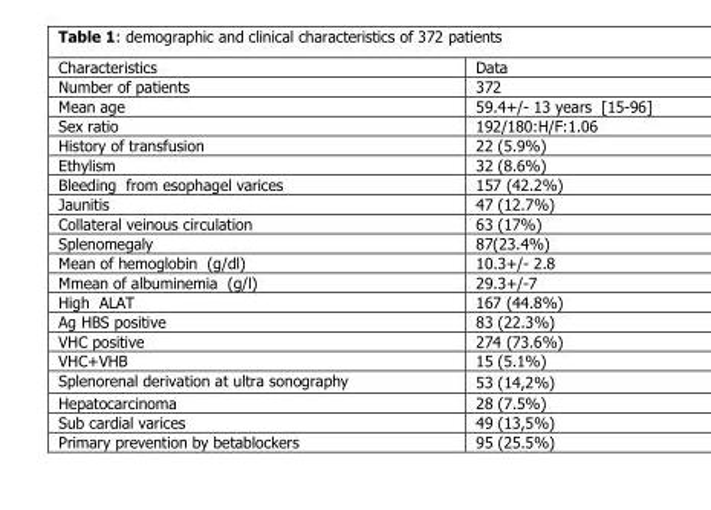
<table><thead><tr><td>Characteristics</td><td>Data</td></tr></thead><tbody><tr><td>Number of patients</td><td>372</td></tr><tr><td>Mean age</td><td>59.4+/- 13 years [15-96]</td></tr><tr><td>Sex ratio</td><td>192/180:H/F:1.06</td></tr><tr><td>History of transfusion</td><td>22 (5.9%)</td></tr><tr><td>Ethylism</td><td>32 (8.6%)</td></tr><tr><td>Bleeding from esophagel varices</td><td>157 (42.2%)</td></tr><tr><td>Jaunitis</td><td>47 (12.7%)</td></tr><tr><td>Collateral veinous circulation</td><td>63 (17%)</td></tr><tr><td>Splenomegaly</td><td>87(23.4%)</td></tr><tr><td>Mean of hemoglobin (g/dl)</td><td>10.3+/- 2.8</td></tr><tr><td>Mmean of albuminemia (g/l)</td><td>29.3+/-7</td></tr><tr><td>High ALAT</td><td>167 (44.8%)</td></tr><tr><td>Ag HBS positive</td><td>83 (22.3%)</td></tr><tr><td>VHC positive</td><td>274 (73.6%)</td></tr><tr><td>VHC+VHB</td><td>15 (5.1%)</td></tr><tr><td>Splenorenal derivation at ultra sonography</td><td>53 (14,2%)</td></tr><tr><td>Hepatocarcinoma</td><td>28 (7.5%)</td></tr><tr><td>Sub cardial varices</td><td>49 (13,5%)</td></tr><tr><td>Primary prevention by betablockers</td><td>95 (25.5%)</td></tr></tbody></table>